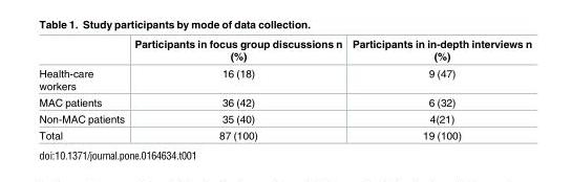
<table><thead><tr><td></td><td>Participants in focus group discussions n (%)</td><td>Participants in in-depth interviews n (%)</td></tr></thead><tbody><tr><td>Health-care workers</td><td>16 (18)</td><td>9 (47)</td></tr><tr><td>MAC patients</td><td>36 (42)</td><td>6 (32)</td></tr><tr><td>Non-MAC patients</td><td>35 (40)</td><td>4(21)</td></tr><tr><td>Total</td><td>87 (100)</td><td>19 (100)</td></tr></tbody></table>